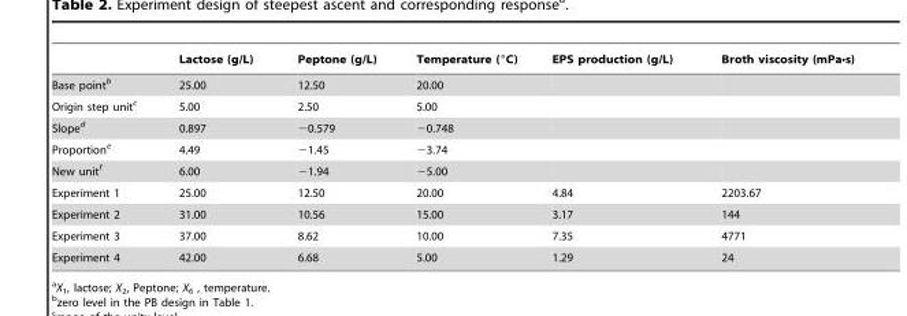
<table><thead><tr><td></td><td>Lactose (g/L)</td><td>Peptone (g/L)</td><td>Temperature (°C)</td><td>EPS production (g/L)</td><td>Broth viscosity (mPa•s)</td></tr></thead><tbody><tr><td>Base point<sup>b</sup></td><td>25.00</td><td>12.50</td><td>20.00</td><td></td><td></td></tr><tr><td>Origin step unit<sup>c</sup></td><td>5.00</td><td>2.50</td><td>5.00</td><td></td><td></td></tr><tr><td>Slope<sup>d</sup></td><td>0.897</td><td>−0.579</td><td>−0.748</td><td></td><td></td></tr><tr><td>Proportion<sup>e</sup></td><td>4.49</td><td>−1.45</td><td>−3.74</td><td></td><td></td></tr><tr><td>New unit<sup>f</sup></td><td>6.00</td><td>−1.94</td><td>−5.00</td><td></td><td></td></tr><tr><td>Experiment 1</td><td>25.00</td><td>12.50</td><td>20.00</td><td>4.84</td><td>2203.67</td></tr><tr><td>Experiment 2</td><td>31.00</td><td>10.56</td><td>15.00</td><td>3.17</td><td>144</td></tr><tr><td>Experiment 3</td><td>37.00</td><td>8.62</td><td>10.00</td><td>7.35</td><td>4771</td></tr><tr><td>Experiment 4</td><td>42.00</td><td>6.68</td><td>5.00</td><td>1.29</td><td>24</td></tr></tbody></table>